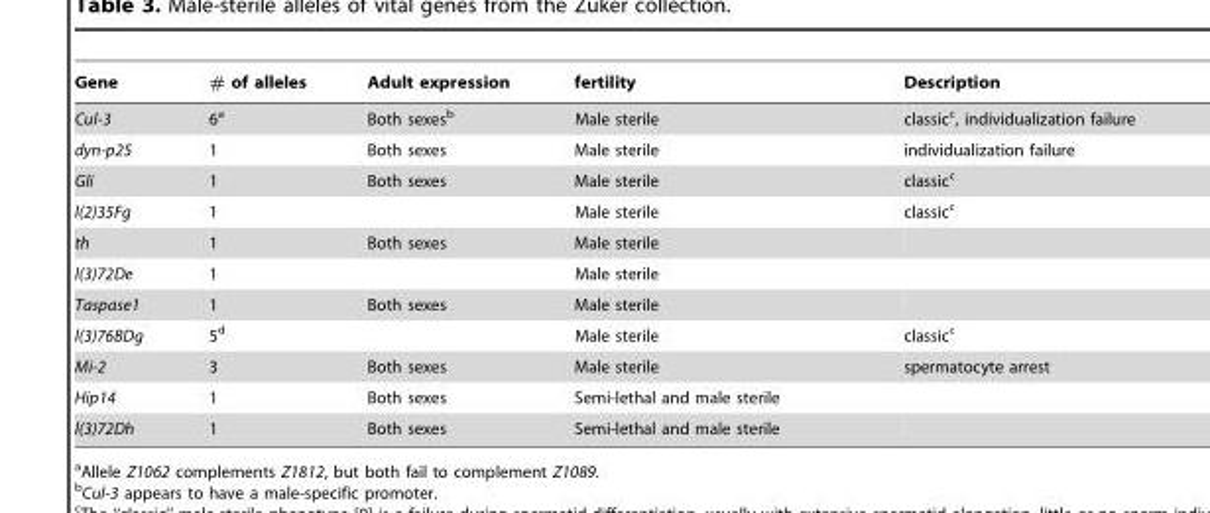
<table><thead><tr><td>Gene</td><td># of alleles</td><td>Adult expression</td><td>fertility</td><td>Description</td></tr></thead><tbody><tr><td>Cul-3</td><td>6<sup>a</sup></td><td>Both sexes<sup>b</sup></td><td>Male sterile</td><td>classic<sup>c</sup>, individualization failure</td></tr><tr><td>dyn-p25</td><td>1</td><td>Both sexes</td><td>Male sterile</td><td>individualization failure</td></tr><tr><td>Gli</td><td>1</td><td>Both sexes</td><td>Male sterile</td><td>classic<sup>c</sup></td></tr><tr><td>l(2)35Fg</td><td>1</td><td></td><td>Male sterile</td><td>classic<sup>c</sup></td></tr><tr><td>th</td><td>1</td><td>Both sexes</td><td>Male sterile</td><td></td></tr><tr><td>l(3)72De</td><td>1</td><td></td><td>Male sterile</td><td></td></tr><tr><td>Taspase1</td><td>1</td><td>Both sexes</td><td>Male sterile</td><td></td></tr><tr><td>l(3)76BDg</td><td>5<sup>d</sup></td><td></td><td>Male sterile</td><td>classic<sup>c</sup></td></tr><tr><td>Mi-2</td><td>3</td><td>Both sexes</td><td>Male sterile</td><td>spermatocyte arrest</td></tr><tr><td>Hip14</td><td>1</td><td>Both sexes</td><td>Semi-lethal and male sterile</td><td></td></tr><tr><td>l(3)72Dh</td><td>1</td><td>Both sexes</td><td>Semi-lethal and male sterile</td><td></td></tr></tbody></table>